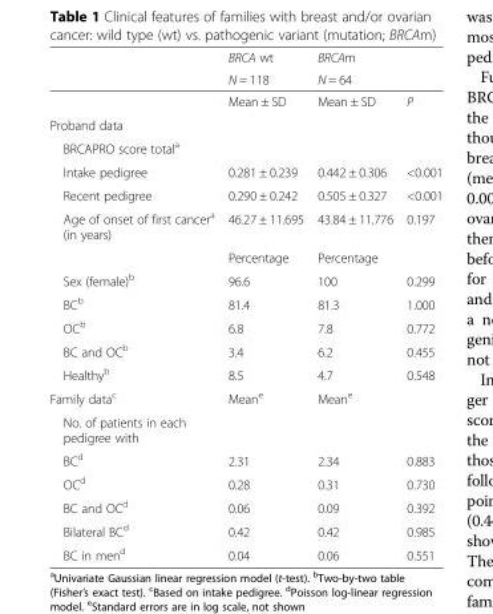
<table><thead><tr><td rowspan="2"></td><td rowspan="2">BRCA wt N = 118</td><td rowspan="2">BRCAm N = 64</td><td rowspan="2"></td></tr><tr></tr></thead><tbody><tr><td></td><td>Mean ± SD</td><td>Mean ± SD</td><td>P</td></tr><tr><td colspan="4">Proband data</td></tr><tr><td colspan="4">BRCAPRO score total<sup>a</sup></td></tr><tr><td>Intake pedigree</td><td>0.281 ± 0.239</td><td>0.442 ± 0.306</td><td>&lt;0.001</td></tr><tr><td>Recent pedigree</td><td>0.290 ± 0.242</td><td>0.505 ± 0.327</td><td>&lt;0.001</td></tr><tr><td rowspan="2">Age of onset of first cancer<sup>a</sup> (in years)</td><td>46.27 ± 11.695</td><td>43.84 ± 11.776</td><td>0.197</td></tr><tr><td>Percentage</td><td>Percentage</td><td></td></tr><tr><td>Sex (female)<sup>b</sup></td><td>96.6</td><td>100</td><td>0.299</td></tr><tr><td>BC<sup>b</sup></td><td>81.4</td><td>81.3</td><td>1.000</td></tr><tr><td>OC<sup>b</sup></td><td>6.8</td><td>7.8</td><td>0.772</td></tr><tr><td>BC and OC<sup>b</sup></td><td>3.4</td><td>6.2</td><td>0.455</td></tr><tr><td>Healthy<sup>b</sup></td><td>8.5</td><td>4.7</td><td>0.548</td></tr><tr><td>Family data<sup>c</sup></td><td>Mean<sup>e</sup></td><td>Mean<sup>e</sup></td><td></td></tr><tr><td colspan="4">No. of patients in each pedigree with</td></tr><tr><td>BC<sup>d</sup></td><td>2.31</td><td>2.34</td><td>0.883</td></tr><tr><td>OC<sup>d</sup></td><td>0.28</td><td>0.31</td><td>0.730</td></tr><tr><td>BC and OC<sup>d</sup></td><td>0.06</td><td>0.09</td><td>0.392</td></tr><tr><td>Bilateral BC<sup>d</sup></td><td>0.42</td><td>0.42</td><td>0.985</td></tr><tr><td>BC in men<sup>d</sup></td><td>0.04</td><td>0.06</td><td>0.551</td></tr></tbody></table>